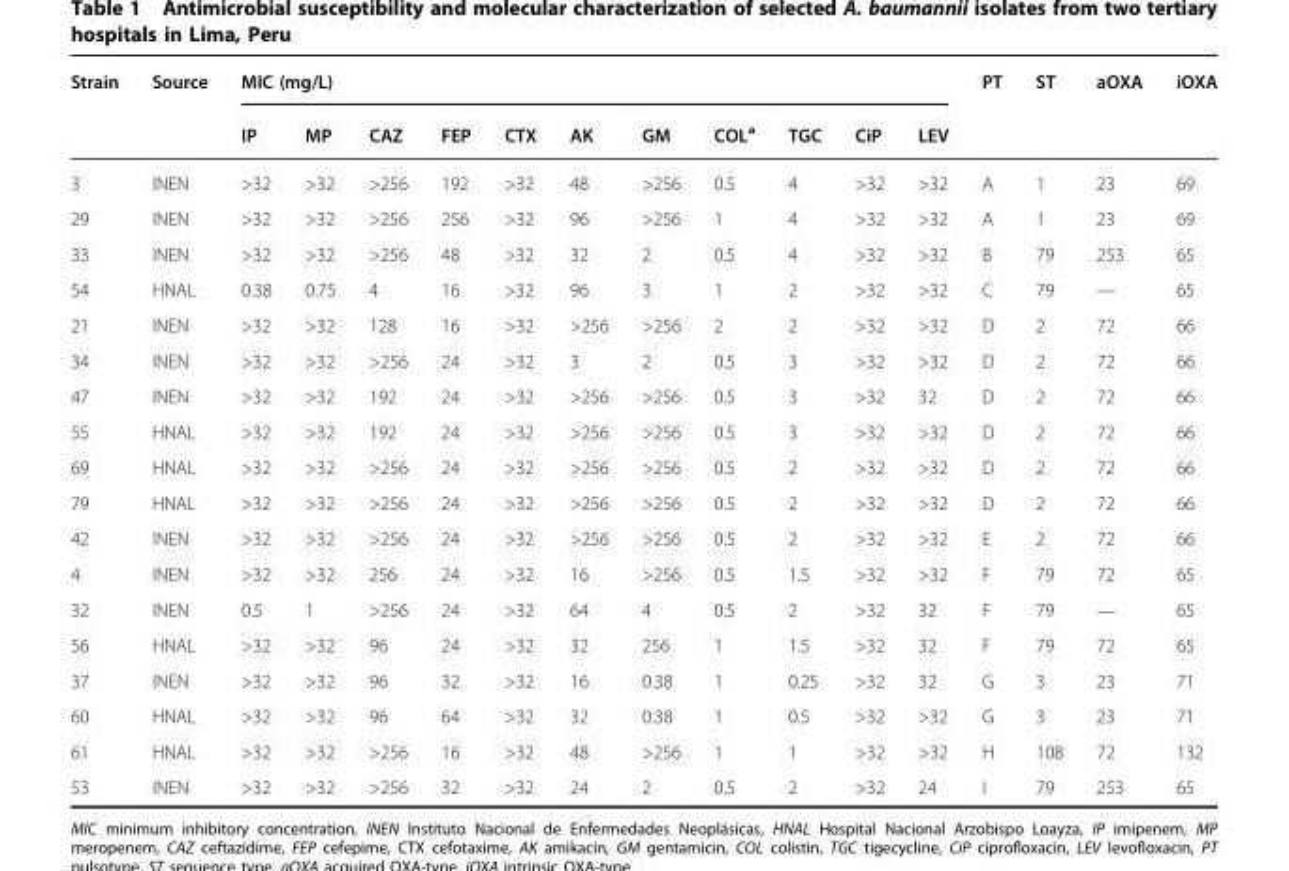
<table><thead><tr><td rowspan="2">Strain</td><td rowspan="2">Source</td><td colspan="11">MIC (mg/L)</td><td rowspan="2">PT</td><td rowspan="2">ST</td><td rowspan="2">aOXA</td><td rowspan="2">iOXA</td></tr><tr><td>IP</td><td>MP</td><td>CAZ</td><td>FEP</td><td>CTX</td><td>AK</td><td>GM</td><td>COL<sup>a</sup></td><td>TGC</td><td>CiP</td><td>LEV</td></tr></thead><tbody><tr><td>3</td><td>INEN</td><td>&gt;32</td><td>&gt;32</td><td>&gt;256</td><td>192</td><td>&gt;32</td><td>48</td><td>&gt;256</td><td>0.5</td><td>4</td><td>&gt;32</td><td>&gt;32</td><td>A</td><td>1</td><td>23</td><td>69</td></tr><tr><td>29</td><td>INEN</td><td>&gt;32</td><td>&gt;32</td><td>&gt;256</td><td>256</td><td>&gt;32</td><td>96</td><td>&gt;256</td><td>1</td><td>4</td><td>&gt;32</td><td>&gt;32</td><td>A</td><td>1</td><td>23</td><td>69</td></tr><tr><td>33</td><td>INEN</td><td>&gt;32</td><td>&gt;32</td><td>&gt;256</td><td>48</td><td>&gt;32</td><td>32</td><td>2</td><td>0.5</td><td>4</td><td>&gt;32</td><td>&gt;32</td><td>B</td><td>79</td><td>253</td><td>65</td></tr><tr><td>54</td><td>HNAL</td><td>0.38</td><td>0.75</td><td>4</td><td>16</td><td>&gt;32</td><td>96</td><td>3</td><td>1</td><td>2</td><td>&gt;32</td><td>&gt;32</td><td>C</td><td>79</td><td>—</td><td>65</td></tr><tr><td>21</td><td>INEN</td><td>&gt;32</td><td>&gt;32</td><td>128</td><td>16</td><td>&gt;32</td><td>&gt;256</td><td>&gt;256</td><td>2</td><td>2</td><td>&gt;32</td><td>&gt;32</td><td>D</td><td>2</td><td>72</td><td>66</td></tr><tr><td>34</td><td>INEN</td><td>&gt;32</td><td>&gt;32</td><td>&gt;256</td><td>24</td><td>&gt;32</td><td>3</td><td>2</td><td>0.5</td><td>3</td><td>&gt;32</td><td>&gt;32</td><td>D</td><td>2</td><td>72</td><td>66</td></tr><tr><td>47</td><td>INEN</td><td>&gt;32</td><td>&gt;32</td><td>192</td><td>24</td><td>&gt;32</td><td>&gt;256</td><td>&gt;256</td><td>0.5</td><td>3</td><td>&gt;32</td><td>32</td><td>D</td><td>2</td><td>72</td><td>66</td></tr><tr><td>55</td><td>HNAL</td><td>&gt;32</td><td>&gt;32</td><td>192</td><td>24</td><td>&gt;32</td><td>&gt;256</td><td>&gt;256</td><td>0.5</td><td>3</td><td>&gt;32</td><td>&gt;32</td><td>D</td><td>2</td><td>72</td><td>66</td></tr><tr><td>69</td><td>HNAL</td><td>&gt;32</td><td>&gt;32</td><td>&gt;256</td><td>24</td><td>&gt;32</td><td>&gt;256</td><td>&gt;256</td><td>0.5</td><td>2</td><td>&gt;32</td><td>&gt;32</td><td>D</td><td>2</td><td>72</td><td>66</td></tr><tr><td>79</td><td>HNAL</td><td>&gt;32</td><td>&gt;32</td><td>&gt;256</td><td>24</td><td>&gt;32</td><td>&gt;256</td><td>&gt;256</td><td>0.5</td><td>2</td><td>&gt;32</td><td>&gt;32</td><td>D</td><td>2</td><td>72</td><td>66</td></tr><tr><td>42</td><td>INEN</td><td>&gt;32</td><td>&gt;32</td><td>&gt;256</td><td>24</td><td>&gt;32</td><td>&gt;256</td><td>&gt;256</td><td>0.5</td><td>2</td><td>&gt;32</td><td>&gt;32</td><td>E</td><td>2</td><td>72</td><td>66</td></tr><tr><td>4</td><td>INEN</td><td>&gt;32</td><td>&gt;32</td><td>256</td><td>24</td><td>&gt;32</td><td>16</td><td>&gt;256</td><td>0.5</td><td>1.5</td><td>&gt;32</td><td>&gt;32</td><td>F</td><td>79</td><td>72</td><td>65</td></tr><tr><td>32</td><td>INEN</td><td>0.5</td><td>1</td><td>&gt;256</td><td>24</td><td>&gt;32</td><td>64</td><td>4</td><td>0.5</td><td>2</td><td>&gt;32</td><td>32</td><td>F</td><td>79</td><td>—</td><td>65</td></tr><tr><td>56</td><td>HNAL</td><td>&gt;32</td><td>&gt;32</td><td>96</td><td>24</td><td>&gt;32</td><td>32</td><td>256</td><td>1</td><td>1.5</td><td>&gt;32</td><td>32</td><td>F</td><td>79</td><td>72</td><td>65</td></tr><tr><td>37</td><td>INEN</td><td>&gt;32</td><td>&gt;32</td><td>96</td><td>32</td><td>&gt;32</td><td>16</td><td>0.38</td><td>1</td><td>0.25</td><td>&gt;32</td><td>32</td><td>G</td><td>3</td><td>23</td><td>71</td></tr><tr><td>60</td><td>HNAL</td><td>&gt;32</td><td>&gt;32</td><td>96</td><td>64</td><td>&gt;32</td><td>32</td><td>0.38</td><td>1</td><td>0.5</td><td>&gt;32</td><td>&gt;32</td><td>G</td><td>3</td><td>23</td><td>71</td></tr><tr><td>61</td><td>HNAL</td><td>&gt;32</td><td>&gt;32</td><td>&gt;256</td><td>16</td><td>&gt;32</td><td>48</td><td>&gt;256</td><td>1</td><td>1</td><td>&gt;32</td><td>&gt;32</td><td>H</td><td>108</td><td>72</td><td>132</td></tr><tr><td>53</td><td>INEN</td><td>&gt;32</td><td>&gt;32</td><td>&gt;256</td><td>32</td><td>&gt;32</td><td>24</td><td>2</td><td>0.5</td><td>2</td><td>&gt;32</td><td>24</td><td>I</td><td>79</td><td>253</td><td>65</td></tr></tbody></table>